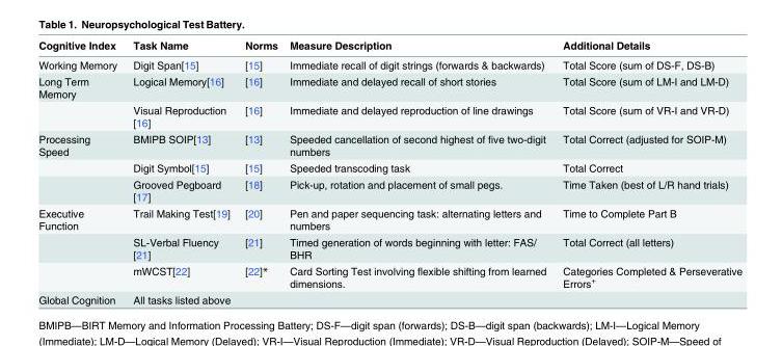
<table><thead><tr><td>Cognitive Index</td><td>Task Name</td><td>Norms</td><td>Measure Description</td><td>Additional Details</td></tr></thead><tbody><tr><td>Working Memory</td><td>Digit Span[15]</td><td>[15]</td><td>Immediate recall of digit strings (forwards &amp; backwards)</td><td>Total Score (sum of DS-F, DS-B)</td></tr><tr><td rowspan="2">Long Term Memory</td><td>Logical Memory[16]</td><td>[16]</td><td>Immediate and delayed recall of short stories</td><td>Total Score (sum of LM-I and LM-D)</td></tr><tr><td>Visual Reproduction [16]</td><td>[16]</td><td>Immediate and delayed reproduction of line drawings</td><td>Total Score (sum of VR-I and VR-D)</td></tr><tr><td rowspan="3">Processing Speed</td><td>BMIPB SOIP[13]</td><td>[13]</td><td>Speeded cancellation of second highest of five two-digit numbers</td><td>Total Correct (adjusted for SOIP-M)</td></tr><tr><td>Digit Symbol[15]</td><td>[15]</td><td>Speeded transcoding task</td><td>Total Correct</td></tr><tr><td>Grooved Pegboard [17]</td><td>[18]</td><td>Pick-up, rotation and placement of small pegs.</td><td>Time Taken (best of L/R hand trials)</td></tr><tr><td rowspan="3">Executive Function</td><td>Trail Making Test[19]</td><td>[20]</td><td>Pen and paper sequencing task: alternating letters and numbers</td><td>Time to Complete Part B</td></tr><tr><td>SL-Verbal Fluency [21]</td><td>[21]</td><td>Timed generation of words beginning with letter: FAS/ BHR</td><td>Total Correct (all letters)</td></tr><tr><td>mWCST[22]</td><td>[22]*</td><td>Card Sorting Test involving flexible shifting from learned dimensions.</td><td>Categories Completed &amp; Perseverative Errors<sup>+</sup></td></tr><tr><td>Global Cognition</td><td>All tasks listed above</td><td></td><td></td><td></td></tr></tbody></table>